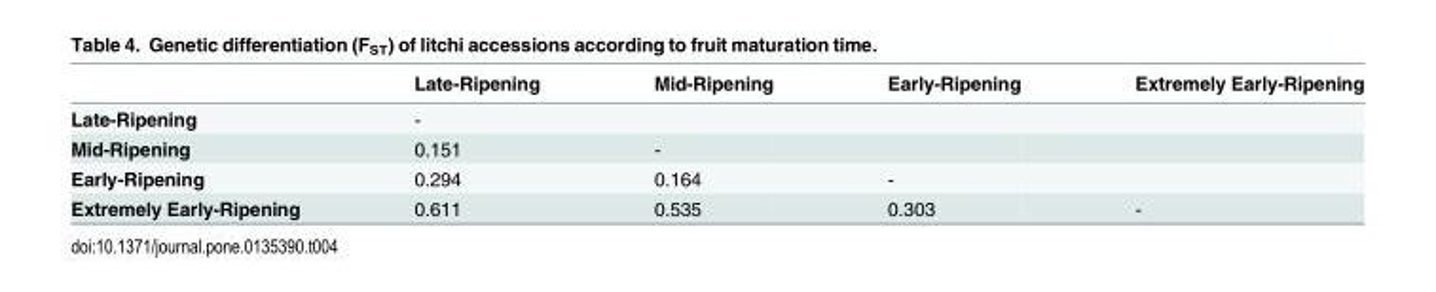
<table><thead><tr><td></td><td>Late-Ripening</td><td>Mid-Ripening</td><td>Early-Ripening</td><td>Extremely Early-Ripening</td></tr></thead><tbody><tr><td>Late-Ripening</td><td>-</td><td></td><td></td><td></td></tr><tr><td>Mid-Ripening</td><td>0.151</td><td>-</td><td></td><td></td></tr><tr><td>Early-Ripening</td><td>0.294</td><td>0.164</td><td>-</td><td></td></tr><tr><td>Extremely Early-Ripening</td><td>0.611</td><td>0.535</td><td>0.303</td><td>-</td></tr></tbody></table>